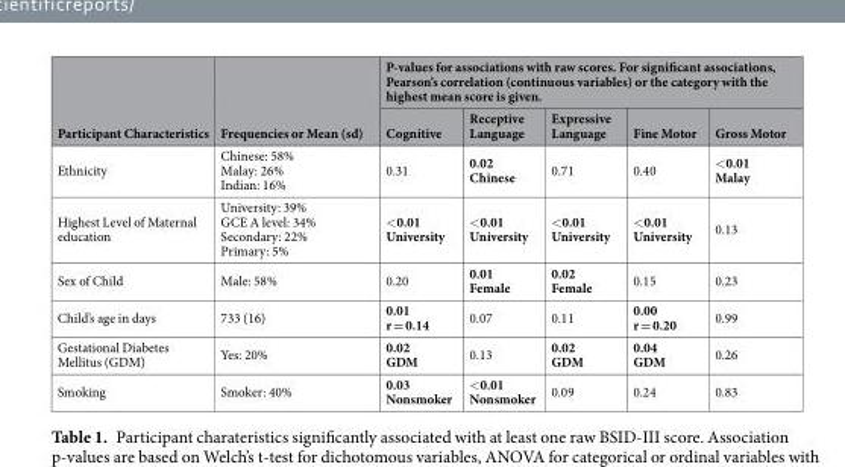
<table><thead><tr><td rowspan="2">Participant Characteristics</td><td rowspan="2">Frequencies or Mean (sd)</td><td colspan="5">P-values for associations with raw scores. For significant associations, Pearson’s correlation (continuous variables) or the category with the highest mean score is given.</td></tr><tr><td>Cognitive</td><td>Receptive Language</td><td>Expressive Language</td><td>Fine Motor</td><td>Gross Motor</td></tr></thead><tbody><tr><td>Ethnicity</td><td>Chinese: 58% Malay: 26% Indian: 16%</td><td>0.31</td><td>0.02 Chinese</td><td>0.71</td><td>0.40</td><td>&lt;0.01 Malay</td></tr><tr><td>Highest Level of Maternal education</td><td>University: 39% GCE A level: 34% Secondary: 22% Primary: 5%</td><td>&lt;0.01 University</td><td>&lt;0.01 University</td><td>&lt;0.01 University</td><td>&lt;0.01 University</td><td>0.13</td></tr><tr><td>Sex of Child</td><td>Male: 58%</td><td>0.20</td><td>0.01 Female</td><td>0.02 Female</td><td>0.15</td><td>0.23</td></tr><tr><td>Child’s age in days</td><td>733 (16)</td><td>0.01 r = 0.14</td><td>0.07</td><td>0.11</td><td>0.00 r = 0.20</td><td>0.99</td></tr><tr><td>Gestational Diabetes Mellitus (GDM)</td><td>Yes: 20%</td><td>0.02 GDM</td><td>0.13</td><td>0.02 GDM</td><td>0.04 GDM</td><td>0.26</td></tr><tr><td>Smoking</td><td>Smoker: 40%</td><td>0.03 Nonsmoker</td><td>&lt;0.01 Nonsmoker</td><td>0.09</td><td>0.24</td><td>0.83</td></tr></tbody></table>